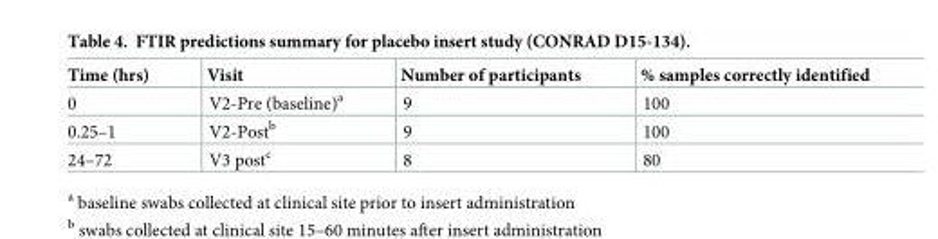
<table><thead><tr><td>Time (hrs)</td><td>Visit</td><td>Number of participants</td><td>% samples correctly identified</td></tr></thead><tbody><tr><td>0</td><td>V2-Pre (baseline)<sup>a</sup></td><td>9</td><td>100</td></tr><tr><td>0.25–1</td><td>V2-Post<sup>b</sup></td><td>9</td><td>100</td></tr><tr><td>24–72</td><td>V3 post<sup>c</sup></td><td>8</td><td>80</td></tr></tbody></table>